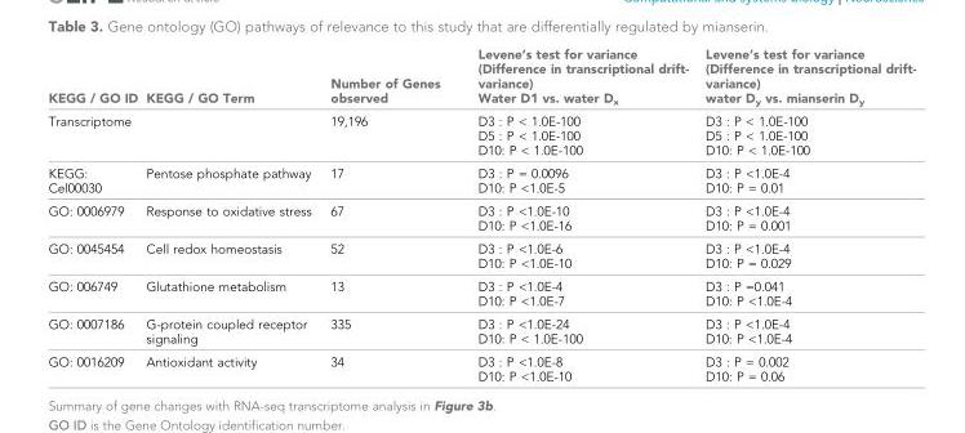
<table><thead><tr><td>KEGG / GO ID</td><td>KEGG / GO Term</td><td>Number of Genes observed</td><td>Levene’s test for variance (Difference in transcriptional drift- variance) Water D1 vs. water D<sub>x</sub></td><td>Levene’s test for variance (Difference in transcriptional drift- variance) water D<sub>y</sub> vs. mianserin D<sub>y</sub></td></tr></thead><tbody><tr><td>Transcriptome</td><td></td><td>19,196</td><td>D3 : P &lt; 1.0E-100 D5 : P &lt; 1.0E-100 D10: P &lt; 1.0E-100</td><td>D3 : P &lt; 1.0E-100 D5 : P &lt; 1.0E-100 D10: P &lt; 1.0E-100</td></tr><tr><td>KEGG: Cel00030</td><td>Pentose phosphate pathway</td><td>17</td><td>D3 : P = 0.0096 D10: P &lt;1.0E-5</td><td>D3 : P &lt;1.0E-4 D10: P = 0.01</td></tr><tr><td>GO: 0006979</td><td>Response to oxidative stress</td><td>67</td><td>D3 : P &lt;1.0E-10 D10: P &lt;1.0E-16</td><td>D3 : P &lt;1.0E-4 D10: P = 0.001</td></tr><tr><td>GO: 0045454</td><td>Cell redox homeostasis</td><td>52</td><td>D3 : P &lt;1.0E-6 D10: P &lt;1.0E-10</td><td>D3 : P &lt;1.0E-4 D10: P = 0.029</td></tr><tr><td>GO: 006749</td><td>Glutathione metabolism</td><td>13</td><td>D3 : P &lt;1.0E-4 D10: P &lt;1.0E-7</td><td>D3 : P =0.041 D10: P &lt;1.0E-4</td></tr><tr><td>GO: 0007186</td><td>G-protein coupled receptor signaling</td><td>335</td><td>D3 : P &lt;1.0E-24 D10: P &lt; 1.0E-100</td><td>D3 : P &lt;1.0E-4 D10: P &lt;1.0E-4</td></tr><tr><td>GO: 0016209</td><td>Antioxidant activity</td><td>34</td><td>D3 : P &lt;1.0E-8 D10: P &lt;1.0E-10</td><td>D3 : P = 0.002 D10: P = 0.06</td></tr></tbody></table>